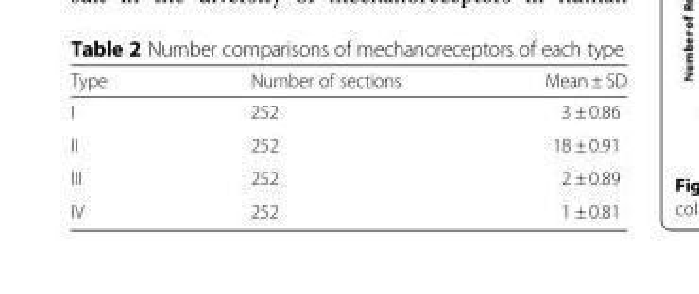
<table><thead><tr><td>Type</td><td>Number of sections</td><td>Mean ± SD</td></tr></thead><tbody><tr><td>I</td><td>252</td><td>3 ± 0.86</td></tr><tr><td>II</td><td>252</td><td>18 ± 0.91</td></tr><tr><td>III</td><td>252</td><td>2 ± 0.89</td></tr><tr><td>IV</td><td>252</td><td>1 ± 0.81</td></tr></tbody></table>